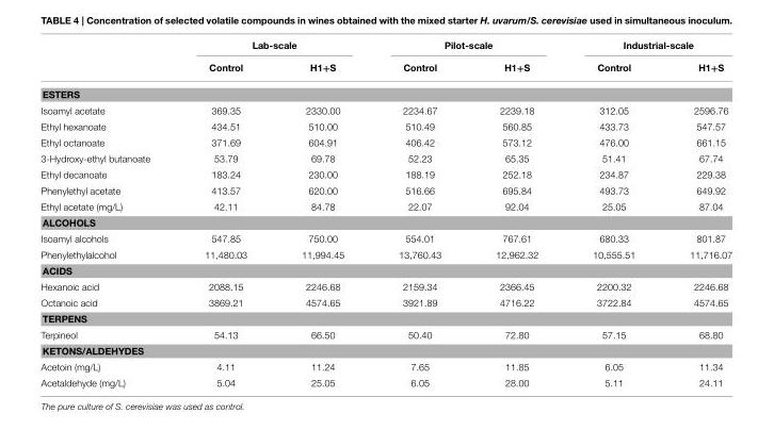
<table><thead><tr><td rowspan="2"></td><td colspan="2">Lab-scale</td><td colspan="2">Pilot-scale</td><td colspan="2">Industrial-scale</td></tr><tr><td>Control</td><td>H1+S</td><td>Control</td><td>H1+S</td><td>Control</td><td>H1+S</td></tr></thead><tbody><tr><td colspan="7">ESTERS</td></tr><tr><td>Isoamyl acetate</td><td>369.35</td><td>2330.00</td><td>2234.67</td><td>2239.18</td><td>312.05</td><td>2596.76</td></tr><tr><td>Ethyl hexanoate</td><td>434.51</td><td>510.00</td><td>510.49</td><td>560.85</td><td>433.73</td><td>547.57</td></tr><tr><td>Ethyl octanoate</td><td>371.69</td><td>604.91</td><td>406.42</td><td>573.12</td><td>476.00</td><td>661.15</td></tr><tr><td>3-Hydroxy-ethyl butanoate</td><td>53.79</td><td>69.78</td><td>52.23</td><td>65.35</td><td>51.41</td><td>67.74</td></tr><tr><td>Ethyl decanoate</td><td>183.24</td><td>230.00</td><td>188.19</td><td>252.18</td><td>234.87</td><td>229.38</td></tr><tr><td>Phenylethyl acetate</td><td>413.57</td><td>620.00</td><td>516.66</td><td>695.84</td><td>493.73</td><td>649.92</td></tr><tr><td>Ethyl acetate (mg/L)</td><td>42.11</td><td>84.78</td><td>22.07</td><td>92.04</td><td>25.05</td><td>87.04</td></tr><tr><td colspan="7">ALCOHOLS</td></tr><tr><td>Isoamyl alcohols</td><td>547.85</td><td>750.00</td><td>554.01</td><td>767.61</td><td>680.33</td><td>801.87</td></tr><tr><td>Phenylethylalcohol</td><td>11,480.03</td><td>11,994.45</td><td>13,760.43</td><td>12,962.32</td><td>10,555.51</td><td>11,716.07</td></tr><tr><td colspan="7">ACIDS</td></tr><tr><td>Hexanoic acid</td><td>2088.15</td><td>2246.68</td><td>2159.34</td><td>2366.45</td><td>2200.32</td><td>2246.68</td></tr><tr><td>Octanoic acid</td><td>3869.21</td><td>4574.65</td><td>3921.89</td><td>4716.22</td><td>3722.84</td><td>4574.65</td></tr><tr><td colspan="7">TERPENS</td></tr><tr><td>Terpineol</td><td>54.13</td><td>66.50</td><td>50.40</td><td>72.80</td><td>57.15</td><td>68.80</td></tr><tr><td colspan="7">KETONS/ALDEHYDES</td></tr><tr><td>Acetoin (mg/L)</td><td>4.11</td><td>11.24</td><td>7.65</td><td>11.85</td><td>6.05</td><td>11.34</td></tr><tr><td>Acetaldehyde (mg/L)</td><td>5.04</td><td>25.05</td><td>6.05</td><td>28.00</td><td>5.11</td><td>24.11</td></tr></tbody></table>